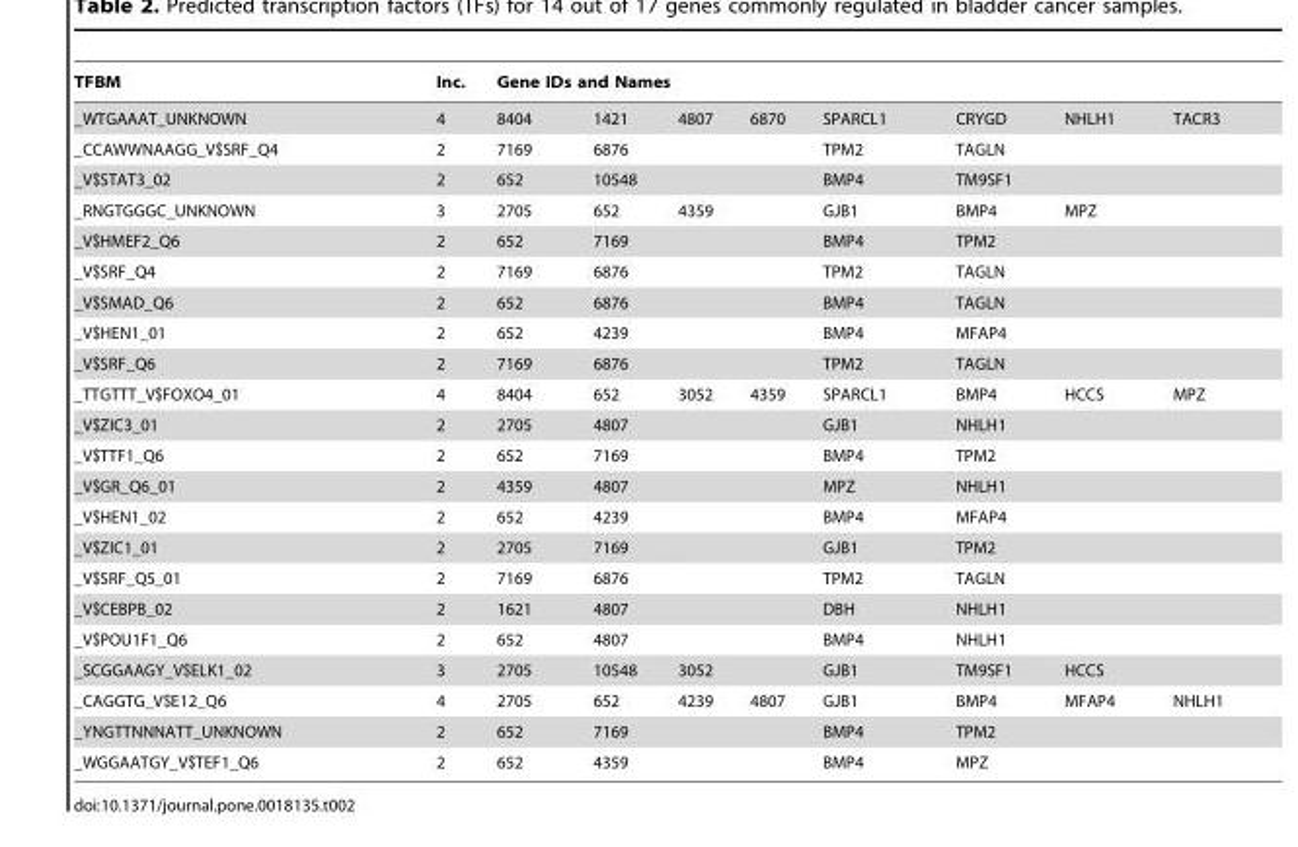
<table><thead><tr><td rowspan="2">TFBM _WTGAAAT_UNKNOWN</td><td rowspan="2">Inc. 4</td><td colspan="8">Gene IDs and Names</td></tr><tr><td>8404</td><td>1421</td><td>4807</td><td>6870</td><td>SPARCL1</td><td>CRYGD</td><td>NHLH1</td><td>TACR3</td></tr></thead><tbody><tr><td>_CCAWWNAAGG_V$SRF_Q4</td><td>2</td><td>7169</td><td>6876</td><td></td><td></td><td>TPM2</td><td>TAGLN</td><td></td><td></td></tr><tr><td>_V$STAT3_02</td><td>2</td><td>652</td><td>10548</td><td></td><td></td><td>BMP4</td><td>TM9SF1</td><td></td><td></td></tr><tr><td>_RNGTGGGC_UNKNOWN</td><td>3</td><td>2705</td><td>652</td><td>4359</td><td></td><td>GJB1</td><td>BMP4</td><td>MPZ</td><td></td></tr><tr><td>_V$HMEF2_Q6</td><td>2</td><td>652</td><td>7169</td><td></td><td></td><td>BMP4</td><td>TPM2</td><td></td><td></td></tr><tr><td>_V$SRF_Q4</td><td>2</td><td>7169</td><td>6876</td><td></td><td></td><td>TPM2</td><td>TAGLN</td><td></td><td></td></tr><tr><td>_V$SMAD_Q6</td><td>2</td><td>652</td><td>6876</td><td></td><td></td><td>BMP4</td><td>TAGLN</td><td></td><td></td></tr><tr><td>_V$HEN1_01</td><td>2</td><td>652</td><td>4239</td><td></td><td></td><td>BMP4</td><td>MFAP4</td><td></td><td></td></tr><tr><td>_V$SRF_Q6</td><td>2</td><td>7169</td><td>6876</td><td></td><td></td><td>TPM2</td><td>TAGLN</td><td></td><td></td></tr><tr><td>_TTGTTT_V$FOXO4_01</td><td>4</td><td>8404</td><td>652</td><td>3052</td><td>4359</td><td>SPARCL1</td><td>BMP4</td><td>HCCS</td><td>MPZ</td></tr><tr><td>_V$ZIC3_01</td><td>2</td><td>2705</td><td>4807</td><td></td><td></td><td>GJB1</td><td>NHLH1</td><td></td><td></td></tr><tr><td>_V$TTF1_Q6</td><td>2</td><td>652</td><td>7169</td><td></td><td></td><td>BMP4</td><td>TPM2</td><td></td><td></td></tr><tr><td>_V$GR_Q6_01</td><td>2</td><td>4359</td><td>4807</td><td></td><td></td><td>MPZ</td><td>NHLH1</td><td></td><td></td></tr><tr><td>_V$HEN1_02</td><td>2</td><td>652</td><td>4239</td><td></td><td></td><td>BMP4</td><td>MFAP4</td><td></td><td></td></tr><tr><td>_V$ZIC1_01</td><td>2</td><td>2705</td><td>7169</td><td></td><td></td><td>GJB1</td><td>TPM2</td><td></td><td></td></tr><tr><td>_V$SRF_Q5_01</td><td>2</td><td>7169</td><td>6876</td><td></td><td></td><td>TPM2</td><td>TAGLN</td><td></td><td></td></tr><tr><td>_V$CEBPB_02</td><td>2</td><td>1621</td><td>4807</td><td></td><td></td><td>DBH</td><td>NHLH1</td><td></td><td></td></tr><tr><td>_V$POU1F1_Q6</td><td>2</td><td>652</td><td>4807</td><td></td><td></td><td>BMP4</td><td>NHLH1</td><td></td><td></td></tr><tr><td>_SCGGAAGY_V$ELK1_02</td><td>3</td><td>2705</td><td>10548</td><td>3052</td><td></td><td>GJB1</td><td>TM9SF1</td><td>HCCS</td><td></td></tr><tr><td>_CAGGTG_V$E12_Q6</td><td>4</td><td>2705</td><td>652</td><td>4239</td><td>4807</td><td>GJB1</td><td>BMP4</td><td>MFAP4</td><td>NHLH1</td></tr><tr><td>_YNGTTNNNATT_UNKNOWN</td><td>2</td><td>652</td><td>7169</td><td></td><td></td><td>BMP4</td><td>TPM2</td><td></td><td></td></tr><tr><td>_WGGAATGY_V$TEF1_Q6</td><td>2</td><td>652</td><td>4359</td><td></td><td></td><td>BMP4</td><td>MPZ</td><td></td><td></td></tr></tbody></table>